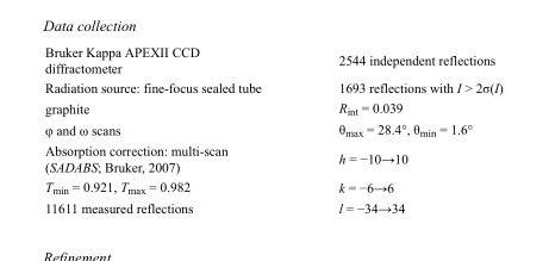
<table><tbody><tr><td>Bruker Kappa APEXII CCD diffractometer</td><td>2544 independent reflections</td></tr><tr><td>Radiation source: fine-focus sealed tube</td><td>1693 reflections with I &gt; 2σ(I)</td></tr><tr><td>graphite</td><td>R<sub>int</sub> = 0.039</td></tr><tr><td>φ and ω scans</td><td>θ<sub>max</sub> = 28.4°, θ<sub>min</sub> = 1.6°</td></tr><tr><td>Absorption correction: multi-scan (SADABS; Bruker, 2007)</td><td>h = −10→10</td></tr><tr><td>T<sub>min</sub> = 0.921, T<sub>max</sub> = 0.982</td><td>k = −6→6</td></tr><tr><td>11611 measured reflections</td><td>l = −34→34</td></tr></tbody></table>